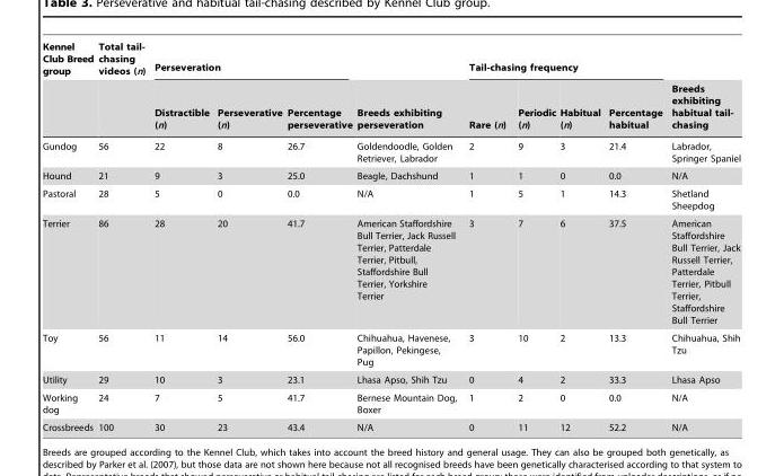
<table><thead><tr><td rowspan="2">Kennel Club Breed group</td><td rowspan="2">Total tail- chasing videos (n)</td><td colspan="3">Perseveration</td><td rowspan="2">Breeds exhibiting perseveration</td><td colspan="4">Tail-chasing frequency</td><td rowspan="2">Breeds exhibiting habitual tail- chasing</td></tr><tr><td>Distractible (n)</td><td>Perseverative (n)</td><td>Percentage perseverative</td><td>Rare (n)</td><td>Periodic (n)</td><td>Habitual (n)</td><td>Percentage habitual</td></tr></thead><tbody><tr><td>Gundog</td><td>56</td><td>22</td><td>8</td><td>26.7</td><td>Goldendoodle, Golden Retriever, Labrador</td><td>2</td><td>9</td><td>3</td><td>21.4</td><td>Labrador, Springer Spaniel</td></tr><tr><td>Hound</td><td>21</td><td>9</td><td>3</td><td>25.0</td><td>Beagle, Dachshund</td><td>1</td><td>1</td><td>0</td><td>0.0</td><td>N/A</td></tr><tr><td>Pastoral</td><td>28</td><td>5</td><td>0</td><td>0.0</td><td>N/A</td><td>1</td><td>5</td><td>1</td><td>14.3</td><td>Shetland Sheepdog</td></tr><tr><td>Terrier</td><td>86</td><td>28</td><td>20</td><td>41.7</td><td>American Staffordshire Bull Terrier, Jack Russell Terrier, Patterdale Terrier, Pitbull, Staffordshire Bull Terrier, Yorkshire Terrier</td><td>3</td><td>7</td><td>6</td><td>37.5</td><td>American Staffordshire Bull Terrier, Jack Russell Terrier, Patterdale Terrier, Pitbull Terrier, Staffordshire Bull Terrier</td></tr><tr><td>Toy</td><td>56</td><td>11</td><td>14</td><td>56.0</td><td>Chihuahua, Havenese, Papillon, Pekingese, Pug</td><td>3</td><td>10</td><td>2</td><td>13.3</td><td>Chihuahua, Shih Tzu</td></tr><tr><td>Utility</td><td>29</td><td>10</td><td>3</td><td>23.1</td><td>Lhasa Apso, Shih Tzu</td><td>0</td><td>4</td><td>2</td><td>33.3</td><td>Lhasa Apso</td></tr><tr><td>Working dog</td><td>24</td><td>7</td><td>5</td><td>41.7</td><td>Bernese Mountain Dog, Boxer</td><td>1</td><td>2</td><td>0</td><td>0.0</td><td>N/A</td></tr><tr><td>Crossbreeds</td><td>100</td><td>30</td><td>23</td><td>43.4</td><td>N/A</td><td>0</td><td>11</td><td>12</td><td>52.2</td><td>N/A</td></tr></tbody></table>